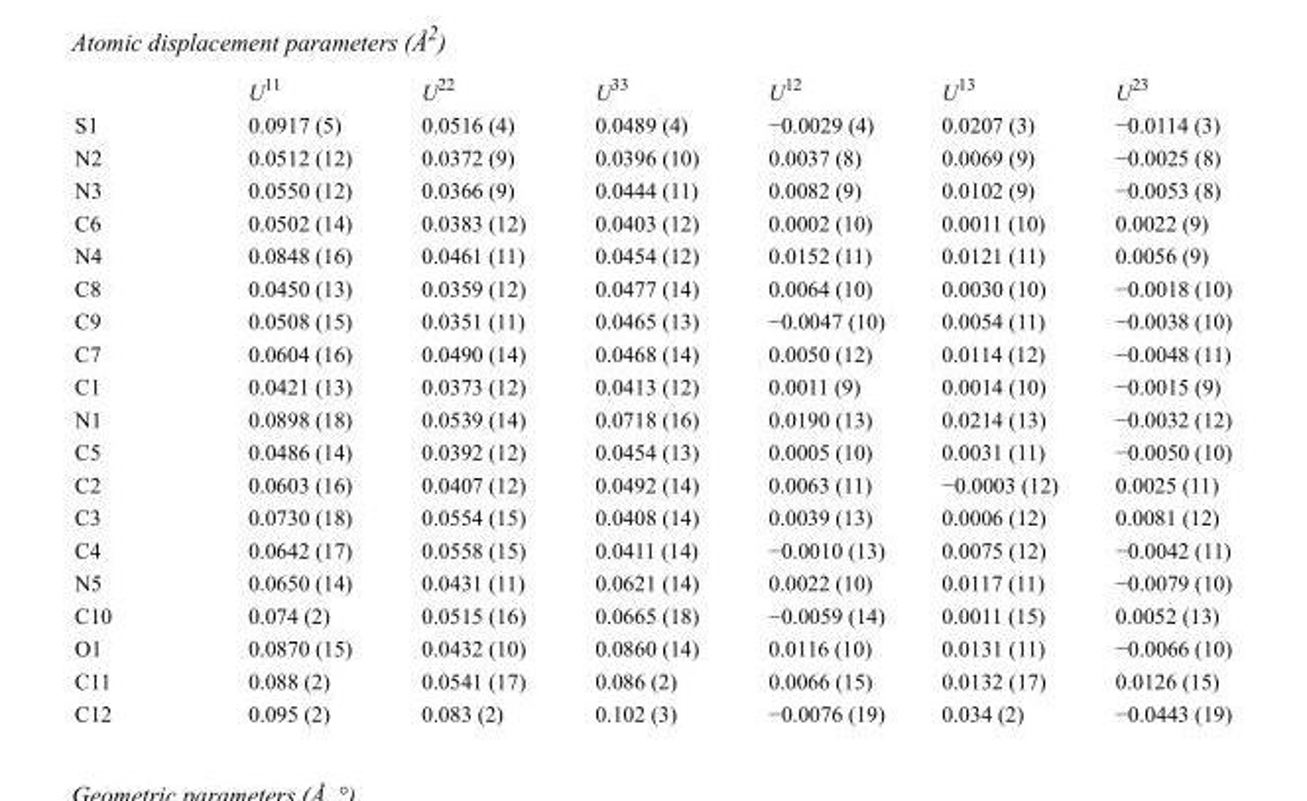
<table><thead><tr><td></td><td>U<sup>11</sup></td><td>U<sup>22</sup></td><td>U<sup>33</sup></td><td>U<sup>12</sup></td><td>U<sup>13</sup></td><td>U<sup>23</sup></td></tr></thead><tbody><tr><td>S1</td><td>0.0917 (5)</td><td>0.0516 (4)</td><td>0.0489 (4)</td><td>−0.0029 (4)</td><td>0.0207 (3)</td><td>−0.0114 (3)</td></tr><tr><td>N2</td><td>0.0512 (12)</td><td>0.0372 (9)</td><td>0.0396 (10)</td><td>0.0037 (8)</td><td>0.0069 (9)</td><td>−0.0025 (8)</td></tr><tr><td>N3</td><td>0.0550 (12)</td><td>0.0366 (9)</td><td>0.0444 (11)</td><td>0.0082 (9)</td><td>0.0102 (9)</td><td>−0.0053 (8)</td></tr><tr><td>C6</td><td>0.0502 (14)</td><td>0.0383 (12)</td><td>0.0403 (12)</td><td>0.0002 (10)</td><td>0.0011 (10)</td><td>0.0022 (9)</td></tr><tr><td>N4</td><td>0.0848 (16)</td><td>0.0461 (11)</td><td>0.0454 (12)</td><td>0.0152 (11)</td><td>0.0121 (11)</td><td>0.0056 (9)</td></tr><tr><td>C8</td><td>0.0450 (13)</td><td>0.0359 (12)</td><td>0.0477 (14)</td><td>0.0064 (10)</td><td>0.0030 (10)</td><td>−0.0018 (10)</td></tr><tr><td>C9</td><td>0.0508 (15)</td><td>0.0351 (11)</td><td>0.0465 (13)</td><td>−0.0047 (10)</td><td>0.0054 (11)</td><td>−0.0038 (10)</td></tr><tr><td>C7</td><td>0.0604 (16)</td><td>0.0490 (14)</td><td>0.0468 (14)</td><td>0.0050 (12)</td><td>0.0114 (12)</td><td>−0.0048 (11)</td></tr><tr><td>C1</td><td>0.0421 (13)</td><td>0.0373 (12)</td><td>0.0413 (12)</td><td>0.0011 (9)</td><td>0.0014 (10)</td><td>−0.0015 (9)</td></tr><tr><td>N1</td><td>0.0898 (18)</td><td>0.0539 (14)</td><td>0.0718 (16)</td><td>0.0190 (13)</td><td>0.0214 (13)</td><td>−0.0032 (12)</td></tr><tr><td>C5</td><td>0.0486 (14)</td><td>0.0392 (12)</td><td>0.0454 (13)</td><td>0.0005 (10)</td><td>0.0031 (11)</td><td>−0.0050 (10)</td></tr><tr><td>C2</td><td>0.0603 (16)</td><td>0.0407 (12)</td><td>0.0492 (14)</td><td>0.0063 (11)</td><td>−0.0003 (12)</td><td>0.0025 (11)</td></tr><tr><td>C3</td><td>0.0730 (18)</td><td>0.0554 (15)</td><td>0.0408 (14)</td><td>0.0039 (13)</td><td>0.0006 (12)</td><td>0.0081 (12)</td></tr><tr><td>C4</td><td>0.0642 (17)</td><td>0.0558 (15)</td><td>0.0411 (14)</td><td>−0.0010 (13)</td><td>0.0075 (12)</td><td>−0.0042 (11)</td></tr><tr><td>N5</td><td>0.0650 (14)</td><td>0.0431 (11)</td><td>0.0621 (14)</td><td>0.0022 (10)</td><td>0.0117 (11)</td><td>−0.0079 (10)</td></tr><tr><td>C10</td><td>0.074 (2)</td><td>0.0515 (16)</td><td>0.0665 (18)</td><td>−0.0059 (14)</td><td>0.0011 (15)</td><td>0.0052 (13)</td></tr><tr><td>O1</td><td>0.0870 (15)</td><td>0.0432 (10)</td><td>0.0860 (14)</td><td>0.0116 (10)</td><td>0.0131 (11)</td><td>−0.0066 (10)</td></tr><tr><td>C11</td><td>0.088 (2)</td><td>0.0541 (17)</td><td>0.086 (2)</td><td>0.0066 (15)</td><td>0.0132 (17)</td><td>0.0126 (15)</td></tr><tr><td>C12</td><td>0.095 (2)</td><td>0.083 (2)</td><td>0.102 (3)</td><td>−0.0076 (19)</td><td>0.034 (2)</td><td>−0.0443 (19)</td></tr></tbody></table>